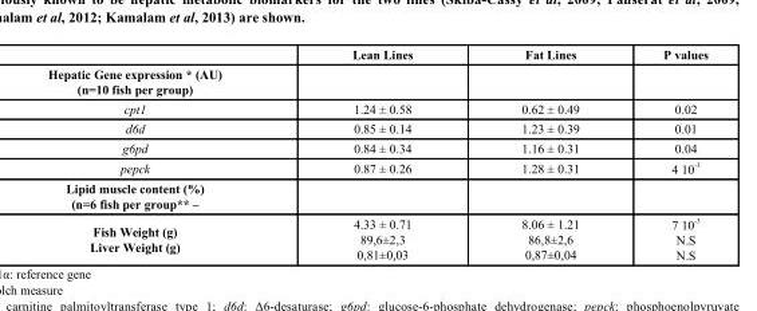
<table><thead><tr><td></td><td>Lean Lines</td><td>Fat Lines</td><td>P values</td></tr></thead><tbody><tr><td colspan="4">Hepatic Gene expression * (AU) (n=10 fish per group)</td></tr><tr><td>cpt1</td><td>1.24 ± 0.58</td><td>0.62 ± 0.49</td><td>0.02</td></tr><tr><td>d6d</td><td>0.85 ± 0.14</td><td>1.23 ± 0.39</td><td>0.01</td></tr><tr><td>g6pd</td><td>0.84 ± 0.34</td><td>1.16 ± 0.31</td><td>0.04</td></tr><tr><td>pepck</td><td>0.87 ± 0.26</td><td>1.28 ± 0.31</td><td>4 10 <sup>-3</sup></td></tr><tr><td colspan="4">Lipid muscle content (%) (n=6 fish per group** –</td></tr><tr><td>Fish Weight (g) Liver Weight (g)</td><td>4.33 ± 0.71 89,6±2,3 0,81±0,03</td><td>8.06 ± 1.21 86,8±2,6 0,87±0,04</td><td>7 10 <sup>-3</sup> N.S N.S</td></tr></tbody></table>